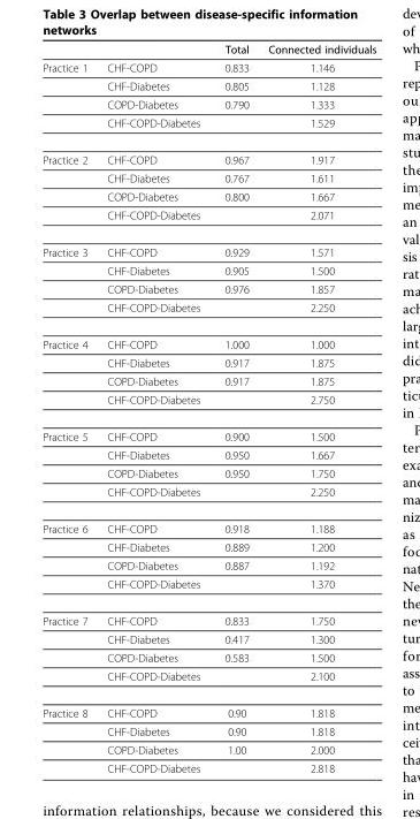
<table><thead><tr><td></td><td></td><td>Total</td><td>Connected individuals</td></tr></thead><tbody><tr><td rowspan="4">Practice 1</td><td>CHF-COPD</td><td>0.833</td><td>1.146</td></tr><tr><td>CHF-Diabetes</td><td>0.805</td><td>1.128</td></tr><tr><td>COPD-Diabetes</td><td>0.790</td><td>1.333</td></tr><tr><td>CHF-COPD-Diabetes</td><td></td><td>1.529</td></tr><tr><td rowspan="4">Practice 2</td><td>CHF-COPD</td><td>0.967</td><td>1.917</td></tr><tr><td>CHF-Diabetes</td><td>0.767</td><td>1.611</td></tr><tr><td>COPD-Diabetes</td><td>0.800</td><td>1.667</td></tr><tr><td>CHF-COPD-Diabetes</td><td></td><td>2.071</td></tr><tr><td rowspan="4">Practice 3</td><td>CHF-COPD</td><td>0.929</td><td>1.571</td></tr><tr><td>CHF-Diabetes</td><td>0.905</td><td>1.500</td></tr><tr><td>COPD-Diabetes</td><td>0.976</td><td>1.857</td></tr><tr><td>CHF-COPD-Diabetes</td><td></td><td>2.250</td></tr><tr><td rowspan="4">Practice 4</td><td>CHF-COPD</td><td>1.000</td><td>1.000</td></tr><tr><td>CHF-Diabetes</td><td>0.917</td><td>1.875</td></tr><tr><td>COPD-Diabetes</td><td>0.917</td><td>1.875</td></tr><tr><td>CHF-COPD-Diabetes</td><td></td><td>2.750</td></tr><tr><td rowspan="4">Practice 5</td><td>CHF-COPD</td><td>0.900</td><td>1.500</td></tr><tr><td>CHF-Diabetes</td><td>0.950</td><td>1.667</td></tr><tr><td>COPD-Diabetes</td><td>0.950</td><td>1.750</td></tr><tr><td>CHF-COPD-Diabetes</td><td></td><td>2.250</td></tr><tr><td rowspan="4">Practice 6</td><td>CHF-COPD</td><td>0.918</td><td>1.188</td></tr><tr><td>CHF-Diabetes</td><td>0.889</td><td>1.200</td></tr><tr><td>COPD-Diabetes</td><td>0.887</td><td>1.192</td></tr><tr><td>CHF-COPD-Diabetes</td><td></td><td>1.370</td></tr><tr><td rowspan="4">Practice 7</td><td>CHF-COPD</td><td>0.833</td><td>1.750</td></tr><tr><td>CHF-Diabetes</td><td>0.417</td><td>1.300</td></tr><tr><td>COPD-Diabetes</td><td>0.583</td><td>1.500</td></tr><tr><td>CHF-COPD-Diabetes</td><td></td><td>2.100</td></tr><tr><td rowspan="4">Practice 8</td><td>CHF-COPD</td><td>0.90</td><td>1.818</td></tr><tr><td>CHF-Diabetes</td><td>0.90</td><td>1.818</td></tr><tr><td>COPD-Diabetes</td><td>1.00</td><td>2.000</td></tr><tr><td>CHF-COPD-Diabetes</td><td></td><td>2.818</td></tr></tbody></table>